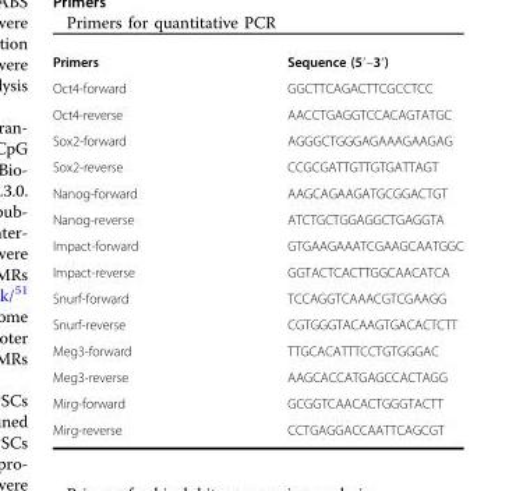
<table><tbody><tr><td>Primers</td><td>Sequence (5′–3′)</td></tr><tr><td>Oct4-forward</td><td>GGCTTCAGACTTCGCCTCC</td></tr><tr><td>Oct4-reverse</td><td>AACCTGAGGTCCACAGTATGC</td></tr><tr><td>Sox2-forward</td><td>AGGGCTGGGAGAAAGAAGAG</td></tr><tr><td>Sox2-reverse</td><td>CCGCGATTGTTGTGATTAGT</td></tr><tr><td>Nanog-forward</td><td>AAGCAGAAGATGCGGACTGT</td></tr><tr><td>Nanog-reverse</td><td>ATCTGCTGGAGGCTGAGGTA</td></tr><tr><td>Impact-forward</td><td>GTGAAGAAATCGAAGCAATGGC</td></tr><tr><td>Impact-reverse</td><td>GGTACTCACTTGGCAACATCA</td></tr><tr><td>Snurf-forward</td><td>TCCAGGTCAAACGTCGAAGG</td></tr><tr><td>Snurf-reverse</td><td>CGTGGGTACAAGTGACACTCTT</td></tr><tr><td>Meg3-forward</td><td>TTGCACATTTCCTGTGGGAC</td></tr><tr><td>Meg3-reverse</td><td>AAGCACCATGAGCCACTAGG</td></tr><tr><td>Mirg-forward</td><td>GCGGTCAACACTGGGTACTT</td></tr><tr><td>Mirg-reverse</td><td>CCTGAGGACCAATTCAGCGT</td></tr></tbody></table>